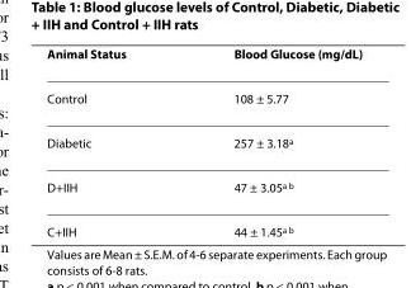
<table><thead><tr><td>Animal Status</td><td>Blood Glucose (mg/dL)</td></tr></thead><tbody><tr><td>Control</td><td>108 ± 5.77</td></tr><tr><td>Diabetic</td><td>257 ± 3.18<sup>a</sup></td></tr><tr><td>D+IIH</td><td>47 ± 3.05<sup>a b</sup></td></tr><tr><td>C+IIH</td><td>44 ± 1.45<sup>a b</sup></td></tr></tbody></table>